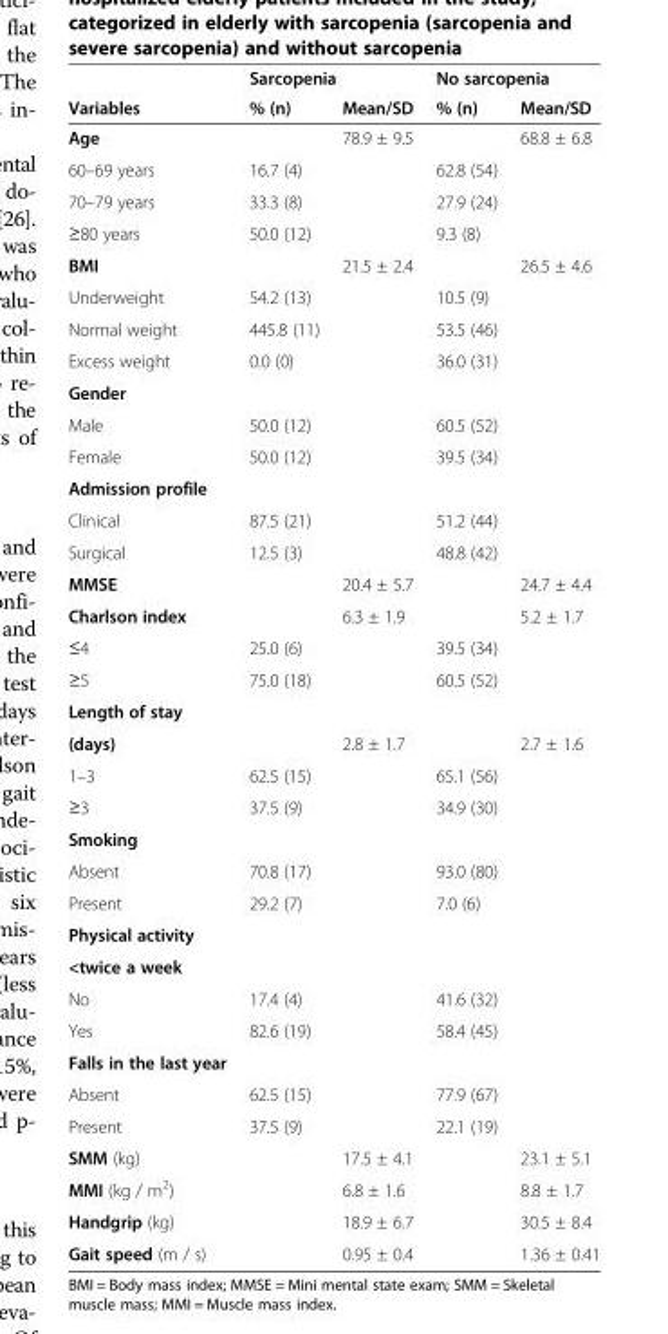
<table><thead><tr><td rowspan="2">Variables</td><td colspan="2">Sarcopenia</td><td colspan="2">No sarcopenia</td></tr><tr><td>% (n)</td><td>Mean/SD</td><td>% (n)</td><td>Mean/SD</td></tr></thead><tbody><tr><td>Age</td><td></td><td>78.9 ± 9.5</td><td></td><td>68.8 ± 6.8</td></tr><tr><td>60–69 years</td><td>16.7 (4)</td><td></td><td>62.8 (54)</td><td></td></tr><tr><td>70–79 years</td><td>33.3 (8)</td><td></td><td>27.9 (24)</td><td></td></tr><tr><td>≥80 years</td><td>50.0 (12)</td><td></td><td>9.3 (8)</td><td></td></tr><tr><td>BMI</td><td></td><td>21.5 ± 2.4</td><td></td><td>26.5 ± 4.6</td></tr><tr><td>Underweight</td><td>54.2 (13)</td><td></td><td>10.5 (9)</td><td></td></tr><tr><td>Normal weight</td><td>445.8 (11)</td><td></td><td>53.5 (46)</td><td></td></tr><tr><td>Excess weight</td><td>0.0 (0)</td><td></td><td>36.0 (31)</td><td></td></tr><tr><td colspan="5">Gender</td></tr><tr><td>Male</td><td>50.0 (12)</td><td></td><td>60.5 (52)</td><td></td></tr><tr><td>Female</td><td>50.0 (12)</td><td></td><td>39.5 (34)</td><td></td></tr><tr><td colspan="5">Admission profile</td></tr><tr><td>Clinical</td><td>87.5 (21)</td><td></td><td>51.2 (44)</td><td></td></tr><tr><td>Surgical</td><td>12.5 (3)</td><td></td><td>48.8 (42)</td><td></td></tr><tr><td>MMSE</td><td></td><td>20.4 ± 5.7</td><td></td><td>24.7 ± 4.4</td></tr><tr><td>Charlson index</td><td></td><td>6.3 ± 1.9</td><td></td><td>5.2 ± 1.7</td></tr><tr><td>≤4</td><td>25.0 (6)</td><td></td><td>39.5 (34)</td><td></td></tr><tr><td>≥5</td><td>75.0 (18)</td><td></td><td>60.5 (52)</td><td></td></tr><tr><td colspan="5">Length of stay</td></tr><tr><td>(days)</td><td></td><td>2.8 ± 1.7</td><td></td><td>2.7 ± 1.6</td></tr><tr><td>1–3</td><td>62.5 (15)</td><td></td><td>65.1 (56)</td><td></td></tr><tr><td>≥3</td><td>37.5 (9)</td><td></td><td>34.9 (30)</td><td></td></tr><tr><td colspan="5">Smoking</td></tr><tr><td>Absent</td><td>70.8 (17)</td><td></td><td>93.0 (80)</td><td></td></tr><tr><td>Present</td><td>29.2 (7)</td><td></td><td>7.0 (6)</td><td></td></tr><tr><td colspan="5">Physical activity</td></tr><tr><td colspan="5">&lt;twice a week</td></tr><tr><td>No</td><td>17.4 (4)</td><td></td><td>41.6 (32)</td><td></td></tr><tr><td>Yes</td><td>82.6 (19)</td><td></td><td>58.4 (45)</td><td></td></tr><tr><td colspan="5">Falls in the last year</td></tr><tr><td>Absent</td><td>62.5 (15)</td><td></td><td>77.9 (67)</td><td></td></tr><tr><td>Present</td><td>37.5 (9)</td><td></td><td>22.1 (19)</td><td></td></tr><tr><td>SMM (kg)</td><td></td><td>17.5 ± 4.1</td><td></td><td>23.1 ± 5.1</td></tr><tr><td>MMI (kg / m<sup>2</sup>)</td><td></td><td>6.8 ± 1.6</td><td></td><td>8.8 ± 1.7</td></tr><tr><td>Handgrip (kg)</td><td></td><td>18.9 ± 6.7</td><td></td><td>30.5 ± 8.4</td></tr><tr><td>Gait speed (m / s)</td><td></td><td>0.95 ± 0.4</td><td></td><td>1.36 ± 0.41</td></tr></tbody></table>